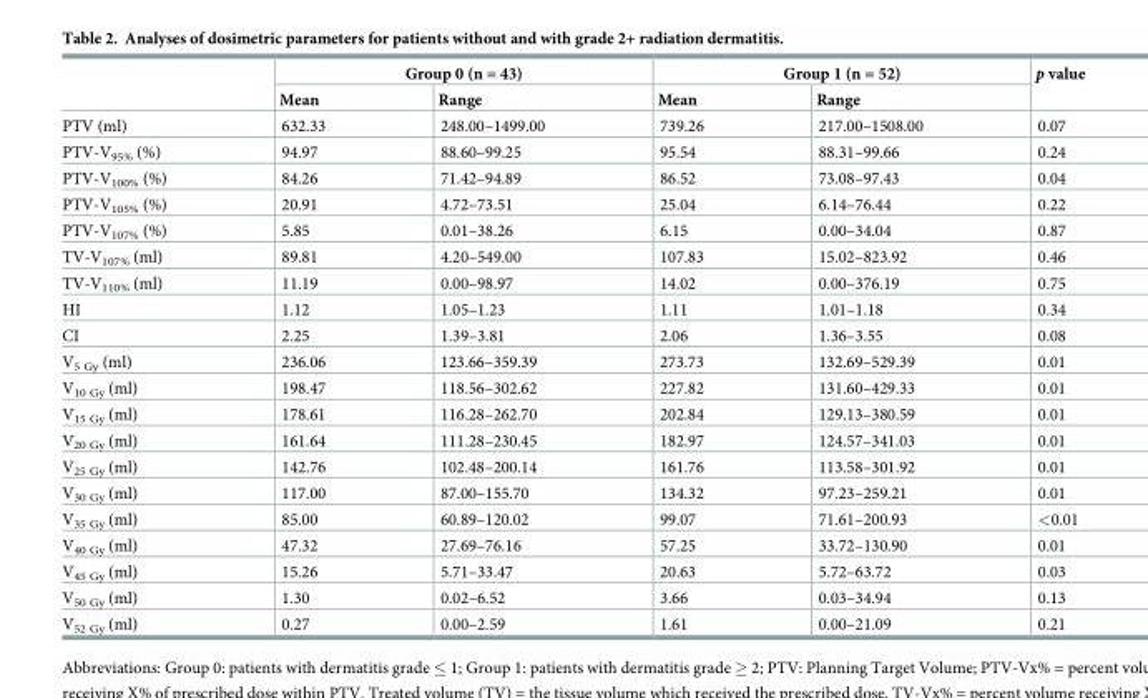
<table><thead><tr><td rowspan="2"></td><td colspan="2">Group 0 (n = 43)</td><td colspan="2">Group 1 (n = 52)</td><td rowspan="2">p value</td></tr><tr><td>Mean</td><td>Range</td><td>Mean</td><td>Range</td></tr></thead><tbody><tr><td>PTV (ml)</td><td>632.33</td><td>248.00–1499.00</td><td>739.26</td><td>217.00–1508.00</td><td>0.07</td></tr><tr><td>PTV-V<sub>95%</sub> (%)</td><td>94.97</td><td>88.60–99.25</td><td>95.54</td><td>88.31–99.66</td><td>0.24</td></tr><tr><td>PTV-V<sub>100%</sub> (%)</td><td>84.26</td><td>71.42–94.89</td><td>86.52</td><td>73.08–97.43</td><td>0.04</td></tr><tr><td>PTV-V<sub>105%</sub> (%)</td><td>20.91</td><td>4.72–73.51</td><td>25.04</td><td>6.14–76.44</td><td>0.22</td></tr><tr><td>PTV-V<sub>107%</sub> (%)</td><td>5.85</td><td>0.01–38.26</td><td>6.15</td><td>0.00–34.04</td><td>0.87</td></tr><tr><td>TV-V<sub>107%</sub> (ml)</td><td>89.81</td><td>4.20–549.00</td><td>107.83</td><td>15.02–823.92</td><td>0.46</td></tr><tr><td>TV-V<sub>110%</sub> (ml)</td><td>11.19</td><td>0.00–98.97</td><td>14.02</td><td>0.00–376.19</td><td>0.75</td></tr><tr><td>HI</td><td>1.12</td><td>1.05–1.23</td><td>1.11</td><td>1.01–1.18</td><td>0.34</td></tr><tr><td>CI</td><td>2.25</td><td>1.39–3.81</td><td>2.06</td><td>1.36–3.55</td><td>0.08</td></tr><tr><td>V<sub>5 Gy</sub> (ml)</td><td>236.06</td><td>123.66–359.39</td><td>273.73</td><td>132.69–529.39</td><td>0.01</td></tr><tr><td>V<sub>10 Gy</sub> (ml)</td><td>198.47</td><td>118.56–302.62</td><td>227.82</td><td>131.60–429.33</td><td>0.01</td></tr><tr><td>V<sub>15 Gy</sub> (ml)</td><td>178.61</td><td>116.28–262.70</td><td>202.84</td><td>129.13–380.59</td><td>0.01</td></tr><tr><td>V<sub>20 Gy</sub> (ml)</td><td>161.64</td><td>111.28–230.45</td><td>182.97</td><td>124.57–341.03</td><td>0.01</td></tr><tr><td>V<sub>25 Gy</sub> (ml)</td><td>142.76</td><td>102.48–200.14</td><td>161.76</td><td>113.58–301.92</td><td>0.01</td></tr><tr><td>V<sub>30 Gy</sub> (ml)</td><td>117.00</td><td>87.00–155.70</td><td>134.32</td><td>97.23–259.21</td><td>0.01</td></tr><tr><td>V<sub>35 Gy</sub> (ml)</td><td>85.00</td><td>60.89–120.02</td><td>99.07</td><td>71.61–200.93</td><td>&lt;0.01</td></tr><tr><td>V<sub>40 Gy</sub> (ml)</td><td>47.32</td><td>27.69–76.16</td><td>57.25</td><td>33.72–130.90</td><td>0.01</td></tr><tr><td>V<sub>45 Gy</sub> (ml)</td><td>15.26</td><td>5.71–33.47</td><td>20.63</td><td>5.72–63.72</td><td>0.03</td></tr><tr><td>V<sub>50 Gy</sub> (ml)</td><td>1.30</td><td>0.02–6.52</td><td>3.66</td><td>0.03–34.94</td><td>0.13</td></tr><tr><td>V<sub>52 Gy</sub> (ml)</td><td>0.27</td><td>0.00–2.59</td><td>1.61</td><td>0.00–21.09</td><td>0.21</td></tr></tbody></table>